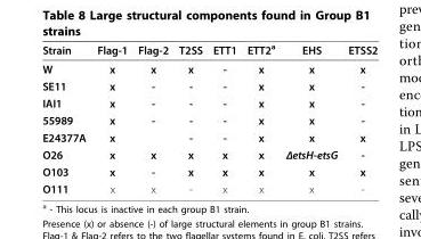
<table><thead><tr><td>Strain</td><td>Flag-1</td><td>Flag-2</td><td>T2SS</td><td>ETT1</td><td>ETT2<sup>a</sup></td><td>EHS</td><td>ETSS2</td></tr></thead><tbody><tr><td>W</td><td>x</td><td>x</td><td>x</td><td>-</td><td>x</td><td>x</td><td>x</td></tr><tr><td>SE11</td><td>x</td><td>-</td><td>-</td><td>-</td><td>x</td><td>x</td><td>-</td></tr><tr><td>IAI1</td><td>x</td><td>-</td><td>-</td><td>-</td><td>x</td><td>x</td><td>-</td></tr><tr><td>55989</td><td>x</td><td>-</td><td>-</td><td>-</td><td>x</td><td>x</td><td>-</td></tr><tr><td>E24377A</td><td>x</td><td></td><td>-</td><td>-</td><td>x</td><td>x</td><td>x</td></tr><tr><td>O26</td><td>x</td><td>x</td><td>x</td><td>x</td><td>x</td><td>ΔetsH-etsG</td><td>-</td></tr><tr><td>O103</td><td>x</td><td>-</td><td>x</td><td>x</td><td>x</td><td>x</td><td>x</td></tr><tr><td>O111</td><td>x</td><td>x</td><td>-</td><td>x</td><td>x</td><td>x</td><td>-</td></tr></tbody></table>